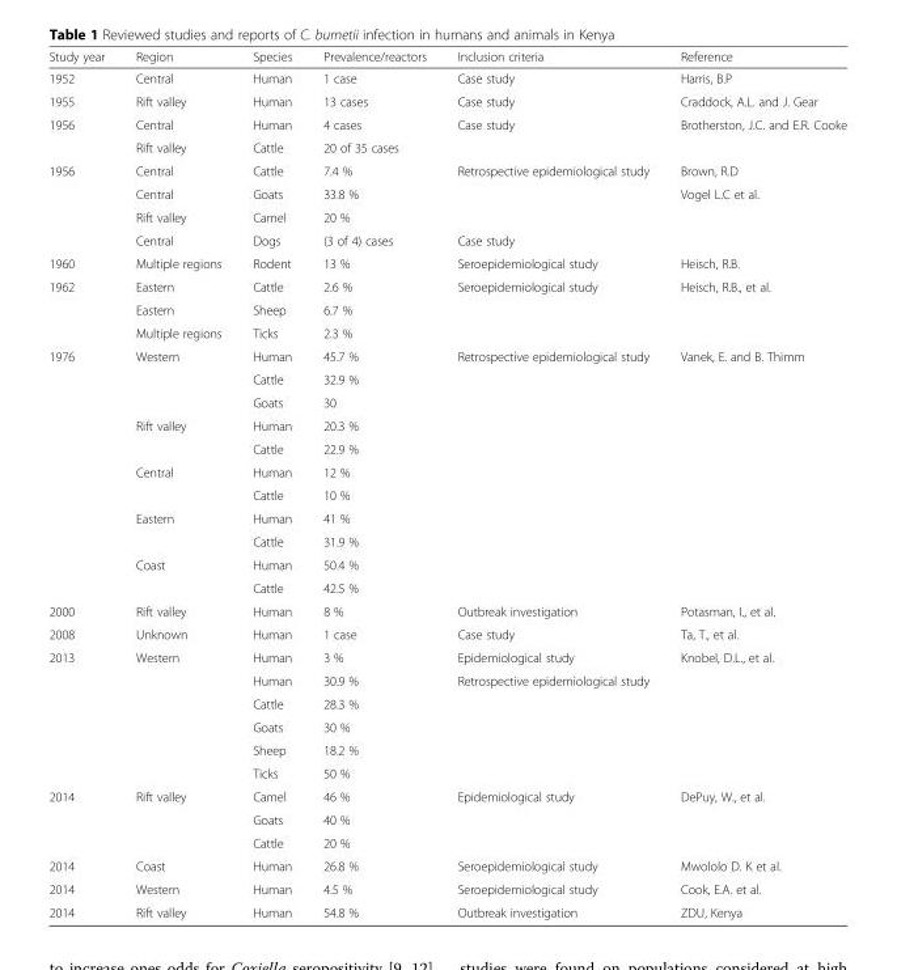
<table><thead><tr><td>Study year</td><td>Region</td><td>Species</td><td>Prevalence/reactors</td><td>Inclusion criteria</td><td>Reference</td></tr></thead><tbody><tr><td>1952</td><td>Central</td><td>Human</td><td>1 case</td><td>Case study</td><td>Harris, B.P</td></tr><tr><td>1955</td><td>Rift valley</td><td>Human</td><td>13 cases</td><td>Case study</td><td>Craddock, A.L. and J. Gear</td></tr><tr><td rowspan="2">1956</td><td>Central</td><td>Human</td><td>4 cases</td><td rowspan="2">Case study</td><td rowspan="2">Brotherston, J.C. and E.R. Cooke</td></tr><tr><td>Rift valley</td><td>Cattle</td><td>20 of 35 cases</td></tr><tr><td rowspan="4">1956</td><td>Central</td><td>Cattle</td><td>7.4 %</td><td rowspan="3">Retrospective epidemiological study</td><td>Brown, R.D</td></tr><tr><td>Central</td><td>Goats</td><td>33.8 %</td><td rowspan="3">Vogel L.C et al.</td></tr><tr><td>Rift valley</td><td>Camel</td><td>20 %</td></tr><tr><td>Central</td><td>Dogs</td><td>(3 of 4) cases</td><td>Case study</td></tr><tr><td>1960</td><td>Multiple regions</td><td>Rodent</td><td>13 %</td><td>Seroepidemiological study</td><td>Heisch, R.B.</td></tr><tr><td rowspan="3">1962</td><td>Eastern</td><td>Cattle</td><td>2.6 %</td><td rowspan="3">Seroepidemiological study</td><td rowspan="3">Heisch, R.B., et al.</td></tr><tr><td>Eastern</td><td>Sheep</td><td>6.7 %</td></tr><tr><td>Multiple regions</td><td>Ticks</td><td>2.3 %</td></tr><tr><td rowspan="11">1976</td><td rowspan="3">Western</td><td>Human</td><td>45.7 %</td><td rowspan="11">Retrospective epidemiological study</td><td rowspan="11">Vanek, E. and B. Thimm</td></tr><tr><td>Cattle</td><td>32.9 %</td></tr><tr><td>Goats</td><td>30</td></tr><tr><td rowspan="2">Rift valley</td><td>Human</td><td>20.3 %</td></tr><tr><td>Cattle</td><td>22.9 %</td></tr><tr><td rowspan="2">Central</td><td>Human</td><td>12 %</td></tr><tr><td>Cattle</td><td>10 %</td></tr><tr><td rowspan="2">Eastern</td><td>Human</td><td>41 %</td></tr><tr><td>Cattle</td><td>31.9 %</td></tr><tr><td rowspan="2">Coast</td><td>Human</td><td>50.4 %</td></tr><tr><td>Cattle</td><td>42.5 %</td></tr><tr><td>2000</td><td>Rift valley</td><td>Human</td><td>8 %</td><td>Outbreak investigation</td><td>Potasman, I., et al.</td></tr><tr><td>2008</td><td>Unknown</td><td>Human</td><td>1 case</td><td>Case study</td><td>Ta, T., et al.</td></tr><tr><td rowspan="6">2013</td><td rowspan="6">Western</td><td>Human</td><td>3 %</td><td>Epidemiological study</td><td rowspan="6">Knobel, D.L., et al.</td></tr><tr><td>Human</td><td>30.9 %</td><td rowspan="5">Retrospective epidemiological study</td></tr><tr><td>Cattle</td><td>28.3 %</td></tr><tr><td>Goats</td><td>30 %</td></tr><tr><td>Sheep</td><td>18.2 %</td></tr><tr><td>Ticks</td><td>50 %</td></tr><tr><td rowspan="3">2014</td><td rowspan="3">Rift valley</td><td>Camel</td><td>46 %</td><td rowspan="3">Epidemiological study</td><td rowspan="3">DePuy, W., et al.</td></tr><tr><td>Goats</td><td>40 %</td></tr><tr><td>Cattle</td><td>20 %</td></tr><tr><td>2014</td><td>Coast</td><td>Human</td><td>26.8 %</td><td>Seroepidemiological study</td><td>Mwololo D. K et al.</td></tr><tr><td>2014</td><td>Western</td><td>Human</td><td>4.5 %</td><td>Seroepidemiological study</td><td>Cook, E.A. et al.</td></tr><tr><td>2014</td><td>Rift valley</td><td>Human</td><td>54.8 %</td><td>Outbreak investigation</td><td>ZDU, Kenya</td></tr></tbody></table>